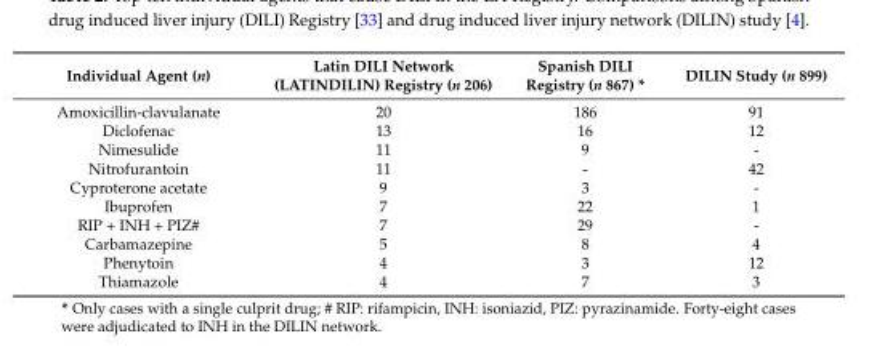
<table><thead><tr><td>Individual Agent (n)</td><td>Latin DILI Network (LATINDILIN) Registry (n 206)</td><td>Spanish DILI Registry (n 867) *</td><td>DILIN Study (n 899)</td></tr></thead><tbody><tr><td>Amoxicillin-clavulanate</td><td>20</td><td>186</td><td>91</td></tr><tr><td>Diclofenac</td><td>13</td><td>16</td><td>12</td></tr><tr><td>Nimesulide</td><td>11</td><td>9</td><td>-</td></tr><tr><td>Nitrofurantoin</td><td>11</td><td>-</td><td>42</td></tr><tr><td>Cyproterone acetate</td><td>9</td><td>3</td><td>-</td></tr><tr><td>Ibuprofen</td><td>7</td><td>22</td><td>1</td></tr><tr><td>RIP + INH + PIZ#</td><td>7</td><td>29</td><td>-</td></tr><tr><td>Carbamazepine</td><td>5</td><td>8</td><td>4</td></tr><tr><td>Phenytoin</td><td>4</td><td>3</td><td>12</td></tr><tr><td>Thiamazole</td><td>4</td><td>7</td><td>3</td></tr></tbody></table>